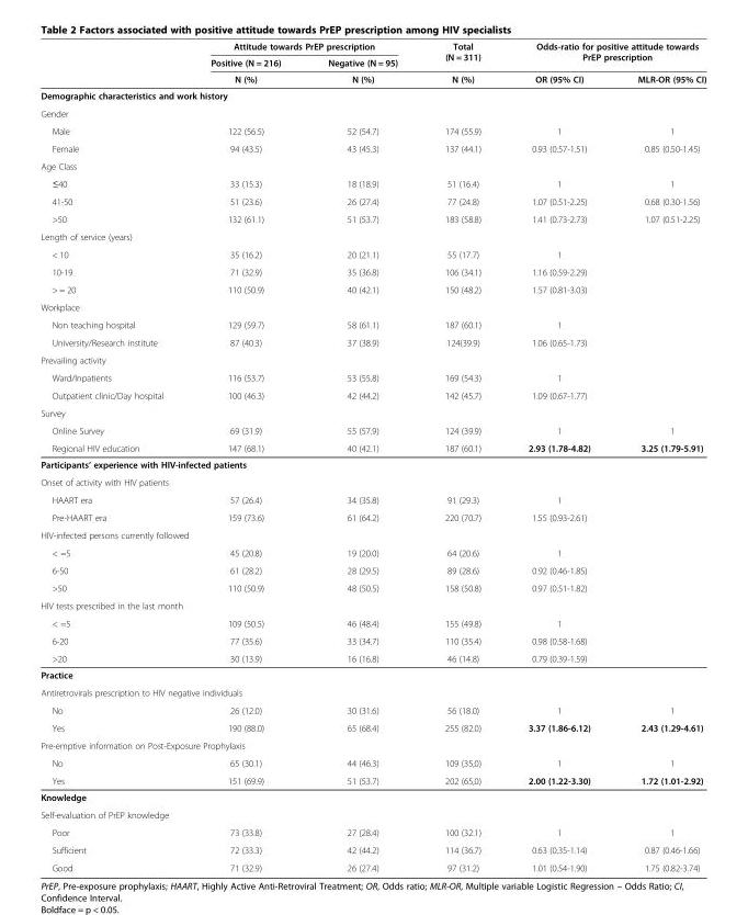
<table><thead><tr><td rowspan="3"></td><td colspan="2">Attitude towards PrEP prescription</td><td rowspan="3">Total (N = 311) N (%)</td><td rowspan="2" colspan="2">Odds-ratio for positive attitude towards PrEP prescription</td></tr><tr><td rowspan="2">Positive (N = 216) N (%)</td><td rowspan="2">Negative (N = 95) N (%)</td></tr><tr><td>OR (95% CI)</td><td>MLR-OR (95% CI)</td></tr></thead><tbody><tr><td colspan="6">Demographic characteristics and work history</td></tr><tr><td colspan="6">Gender</td></tr><tr><td>Male</td><td>122 (56.5)</td><td>52 (54.7)</td><td>174 (55.9)</td><td>1</td><td>1</td></tr><tr><td>Female</td><td>94 (43.5)</td><td>43 (45.3)</td><td>137 (44.1)</td><td>0.93 (0.57-1.51)</td><td>0.85 (0.50-1.45)</td></tr><tr><td colspan="6">Age Class</td></tr><tr><td>≤40</td><td>33 (15.3)</td><td>18 (18.9)</td><td>51 (16.4)</td><td>1</td><td>1</td></tr><tr><td>41-50</td><td>51 (23.6)</td><td>26 (27.4)</td><td>77 (24.8)</td><td>1.07 (0.51-2.25)</td><td>0.68 (0.30-1.56)</td></tr><tr><td>&gt;50</td><td>132 (61.1)</td><td>51 (53.7)</td><td>183 (58.8)</td><td>1.41 (0.73-2.73)</td><td>1.07 (0.51-2.25)</td></tr><tr><td colspan="6">Length of service (years)</td></tr><tr><td>&lt; 10</td><td>35 (16.2)</td><td>20 (21.1)</td><td>55 (17.7)</td><td>1</td><td></td></tr><tr><td>10-19</td><td>71 (32.9)</td><td>35 (36.8)</td><td>106 (34.1)</td><td>1.16 (0.59-2.29)</td><td></td></tr><tr><td>&gt; = 20</td><td>110 (50.9)</td><td>40 (42.1)</td><td>150 (48.2)</td><td>1.57 (0.81-3.03)</td><td></td></tr><tr><td colspan="6">Workplace</td></tr><tr><td>Non teaching hospital</td><td>129 (59.7)</td><td>58 (61.1)</td><td>187 (60.1)</td><td>1</td><td></td></tr><tr><td>University/Research institute</td><td>87 (40.3)</td><td>37 (38.9)</td><td>124(39.9)</td><td>1.06 (0.65-1.73)</td><td></td></tr><tr><td colspan="6">Prevailing activity</td></tr><tr><td>Ward/Inpatients</td><td>116 (53.7)</td><td>53 (55.8)</td><td>169 (54.3)</td><td>1</td><td></td></tr><tr><td>Outpatient clinic/Day hospital</td><td>100 (46.3)</td><td>42 (44.2)</td><td>142 (45.7)</td><td>1.09 (0.67-1.77)</td><td></td></tr><tr><td colspan="6">Survey</td></tr><tr><td>Online Survey</td><td>69 (31.9)</td><td>55 (57.9)</td><td>124 (39.9)</td><td>1</td><td>1</td></tr><tr><td>Regional HIV education</td><td>147 (68.1)</td><td>40 (42.1)</td><td>187 (60.1)</td><td>2.93 (1.78-4.82)</td><td>3.25 (1.79-5.91)</td></tr><tr><td colspan="6">Participants’ experience with HIV-infected patients</td></tr><tr><td colspan="6">Onset of activity with HIV patients</td></tr><tr><td>HAART era</td><td>57 (26.4)</td><td>34 (35.8)</td><td>91 (29.3)</td><td>1</td><td></td></tr><tr><td>Pre-HAART era</td><td>159 (73.6)</td><td>61 (64.2)</td><td>220 (70.7)</td><td>1.55 (0.93-2.61)</td><td></td></tr><tr><td colspan="6">HIV-infected persons currently followed</td></tr><tr><td>&lt; =5</td><td>45 (20.8)</td><td>19 (20.0)</td><td>64 (20.6)</td><td>1</td><td></td></tr><tr><td>6-50</td><td>61 (28.2)</td><td>28 (29.5)</td><td>89 (28.6)</td><td>0.92 (0.46-1.85)</td><td></td></tr><tr><td>&gt;50</td><td>110 (50.9)</td><td>48 (50.5)</td><td>158 (50.8)</td><td>0.97 (0.51-1.82)</td><td></td></tr><tr><td colspan="6">HIV tests prescribed in the last month</td></tr><tr><td>&lt; =5</td><td>109 (50.5)</td><td>46 (48.4)</td><td>155 (49.8)</td><td>1</td><td></td></tr><tr><td>6-20</td><td>77 (35.6)</td><td>33 (34.7)</td><td>110 (35.4)</td><td>0.98 (0.58-1.68)</td><td></td></tr><tr><td>&gt;20</td><td>30 (13.9)</td><td>16 (16.8)</td><td>46 (14.8)</td><td>0.79 (0.39-1.59)</td><td></td></tr><tr><td colspan="6">Practice</td></tr><tr><td colspan="6">Antiretrovirals prescription to HIV negative individuals</td></tr><tr><td>No</td><td>26 (12.0)</td><td>30 (31.6)</td><td>56 (18.0)</td><td>1</td><td>1</td></tr><tr><td>Yes</td><td>190 (88.0)</td><td>65 (68.4)</td><td>255 (82.0)</td><td>3.37 (1.86-6.12)</td><td>2.43 (1.29-4.61)</td></tr><tr><td colspan="6">Pre-emptive information on Post-Exposure Prophylaxis</td></tr><tr><td>No</td><td>65 (30.1)</td><td>44 (46.3)</td><td>109 (35,0)</td><td>1</td><td>1</td></tr><tr><td>Yes</td><td>151 (69.9)</td><td>51 (53.7)</td><td>202 (65,0)</td><td>2.00 (1.22-3.30)</td><td>1.72 (1.01-2.92)</td></tr><tr><td colspan="6">Knowledge</td></tr><tr><td colspan="6">Self-evaluation of PrEP knowledge</td></tr><tr><td>Poor</td><td>73 (33.8)</td><td>27 (28.4)</td><td>100 (32.1)</td><td>1</td><td>1</td></tr><tr><td>Sufficient</td><td>72 (33.3)</td><td>42 (44.2)</td><td>114 (36.7)</td><td>0.63 (0.35-1.14)</td><td>0.87 (0.46-1.66)</td></tr><tr><td>Good</td><td>71 (32.9)</td><td>26 (27.4)</td><td>97 (31.2)</td><td>1.01 (0.54-1.90)</td><td>1.75 (0.82-3.74)</td></tr></tbody></table>